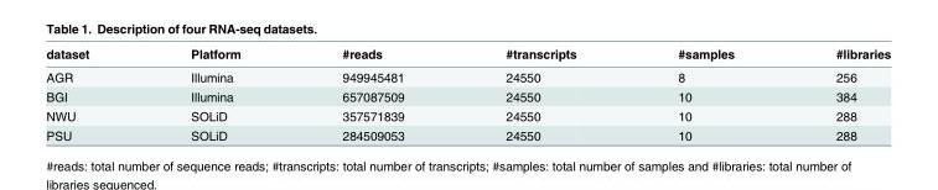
<table><thead><tr><td>dataset</td><td>Platform</td><td>#reads</td><td>#transcripts</td><td>#samples</td><td>#libraries</td></tr></thead><tbody><tr><td>AGR</td><td>Illumina</td><td>949945481</td><td>24550</td><td>8</td><td>256</td></tr><tr><td>BGI</td><td>Illumina</td><td>657087509</td><td>24550</td><td>10</td><td>384</td></tr><tr><td>NWU</td><td>SOLiD</td><td>357571839</td><td>24550</td><td>10</td><td>288</td></tr><tr><td>PSU</td><td>SOLiD</td><td>284509053</td><td>24550</td><td>10</td><td>288</td></tr></tbody></table>